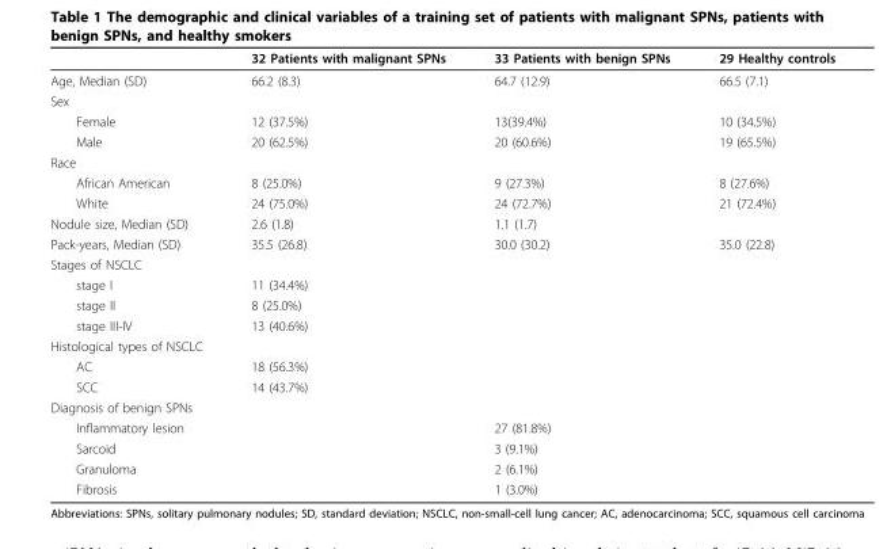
<table><thead><tr><td></td><td>32 Patients with malignant SPNs</td><td>33 Patients with benign SPNs</td><td>29 Healthy controls</td></tr></thead><tbody><tr><td>Age, Median (SD)</td><td>66.2 (8.3)</td><td>64.7 (12.9)</td><td>66.5 (7.1)</td></tr><tr><td colspan="4">Sex</td></tr><tr><td>Female</td><td>12 (37.5%)</td><td>13(39.4%)</td><td>10 (34.5%)</td></tr><tr><td>Male</td><td>20 (62.5%)</td><td>20 (60.6%)</td><td>19 (65.5%)</td></tr><tr><td colspan="4">Race</td></tr><tr><td>African American</td><td>8 (25.0%)</td><td>9 (27.3%)</td><td>8 (27.6%)</td></tr><tr><td>White</td><td>24 (75.0%)</td><td>24 (72.7%)</td><td>21 (72.4%)</td></tr><tr><td>Nodule size, Median (SD)</td><td>2.6 (1.8)</td><td>1.1 (1.7)</td><td></td></tr><tr><td>Pack-years, Median (SD)</td><td>35.5 (26.8)</td><td>30.0 (30.2)</td><td>35.0 (22.8)</td></tr><tr><td colspan="4">Stages of NSCLC</td></tr><tr><td>stage I</td><td>11 (34.4%)</td><td></td><td></td></tr><tr><td>stage II</td><td>8 (25.0%)</td><td></td><td></td></tr><tr><td>stage III-IV</td><td>13 (40.6%)</td><td></td><td></td></tr><tr><td colspan="4">Histological types of NSCLC</td></tr><tr><td>AC</td><td>18 (56.3%)</td><td></td><td></td></tr><tr><td>SCC</td><td>14 (43.7%)</td><td></td><td></td></tr><tr><td colspan="4">Diagnosis of benign SPNs</td></tr><tr><td>Inflammatory lesion</td><td></td><td>27 (81.8%)</td><td></td></tr><tr><td>Sarcoid</td><td></td><td>3 (9.1%)</td><td></td></tr><tr><td>Granuloma</td><td></td><td>2 (6.1%)</td><td></td></tr><tr><td>Fibrosis</td><td></td><td>1 (3.0%)</td><td></td></tr></tbody></table>